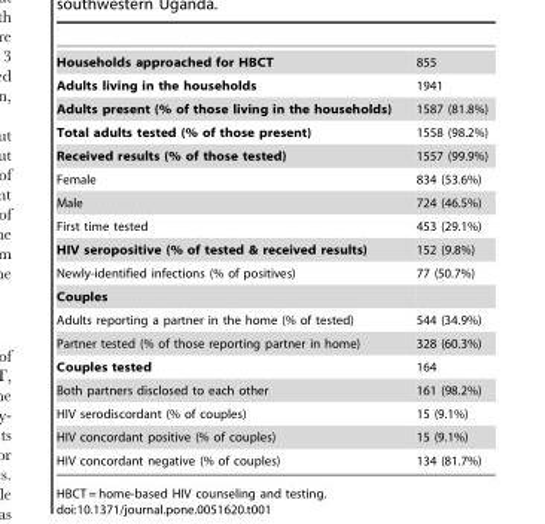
<table><tbody><tr><td>Households approached for HBCT</td><td>855</td></tr><tr><td>Adults living in the households</td><td>1941</td></tr><tr><td>Adults present (% of those living in the households)</td><td>1587 (81.8%)</td></tr><tr><td>Total adults tested (% of those present)</td><td>1558 (98.2%)</td></tr><tr><td>Received results (% of those tested)</td><td>1557 (99.9%)</td></tr><tr><td>Female</td><td>834 (53.6%)</td></tr><tr><td>Male</td><td>724 (46.5%)</td></tr><tr><td>First time tested</td><td>453 (29.1%)</td></tr><tr><td>HIV seropositive (% of tested &amp; received results)</td><td>152 (9.8%)</td></tr><tr><td>Newly-identified infections (% of positives)</td><td>77 (50.7%)</td></tr><tr><td colspan="2">Couples</td></tr><tr><td>Adults reporting a partner in the home (% of tested)</td><td>544 (34.9%)</td></tr><tr><td>Partner tested (% of those reporting partner in home)</td><td>328 (60.3%)</td></tr><tr><td>Couples tested</td><td>164</td></tr><tr><td>Both partners disclosed to each other</td><td>161 (98.2%)</td></tr><tr><td>HIV serodiscordant (% of couples)</td><td>15 (9.1%)</td></tr><tr><td>HIV concordant positive (% of couples)</td><td>15 (9.1%)</td></tr><tr><td>HIV concordant negative (% of couples)</td><td>134 (81.7%)</td></tr></tbody></table>